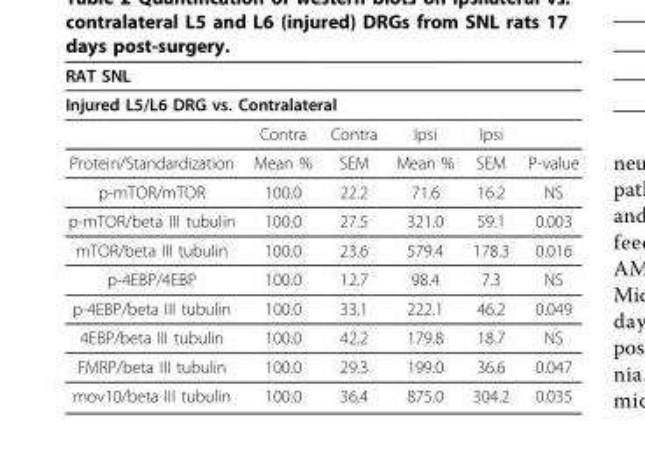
<table><thead><tr><td rowspan="2" colspan="6">RAT SNL Injured L5/L6 DRG vs. Contralateral</td></tr><tr></tr><tr><td></td><td>Contra</td><td>Contra</td><td>Ipsi</td><td>Ipsi</td><td></td></tr></thead><tbody><tr><td>Protein/Standardization</td><td>Mean %</td><td>SEM</td><td>Mean %</td><td>SEM</td><td>P-value</td></tr><tr><td>p-mTOR/mTOR</td><td>100.0</td><td>22.2</td><td>71.6</td><td>16.2</td><td>NS</td></tr><tr><td>p-mTOR/beta III tubulin</td><td>100.0</td><td>27.5</td><td>321.0</td><td>59.1</td><td>0.003</td></tr><tr><td>mTOR/beta III tubulin</td><td>100.0</td><td>23.6</td><td>579.4</td><td>178.3</td><td>0.016</td></tr><tr><td>p-4EBP/4EBP</td><td>100.0</td><td>12.7</td><td>98.4</td><td>7.3</td><td>NS</td></tr><tr><td>p-4EBP/beta III tubulin</td><td>100.0</td><td>33.1</td><td>222.1</td><td>46.2</td><td>0.049</td></tr><tr><td>4EBP/beta III tubulin</td><td>100.0</td><td>42.2</td><td>179.8</td><td>18.7</td><td>NS</td></tr><tr><td>FMRP/beta III tubulin</td><td>100.0</td><td>29.3</td><td>199.0</td><td>36.6</td><td>0.047</td></tr><tr><td>mov10/beta III tubulin</td><td>100.0</td><td>36.4</td><td>875.0</td><td>304.2</td><td>0.035</td></tr></tbody></table>